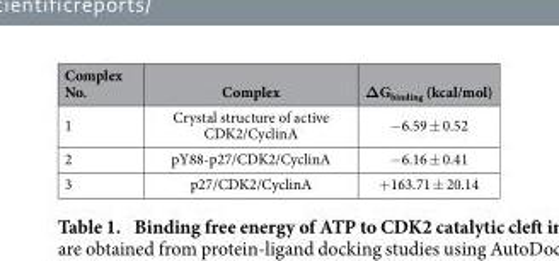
<table><thead><tr><td>Complex No.</td><td>Complex</td><td>ΔG<sub>binding</sub> (kcal/mol)</td></tr></thead><tbody><tr><td>1</td><td>Crystal structure of active CDK2/CyclinA</td><td>− 6.59 ± 0.52</td></tr><tr><td>2</td><td>pY88-p27/CDK2/CyclinA</td><td>− 6.16 ± 0.41</td></tr><tr><td>3</td><td>p27/CDK2/CyclinA</td><td>+ 163.71 ± 20.14</td></tr></tbody></table>